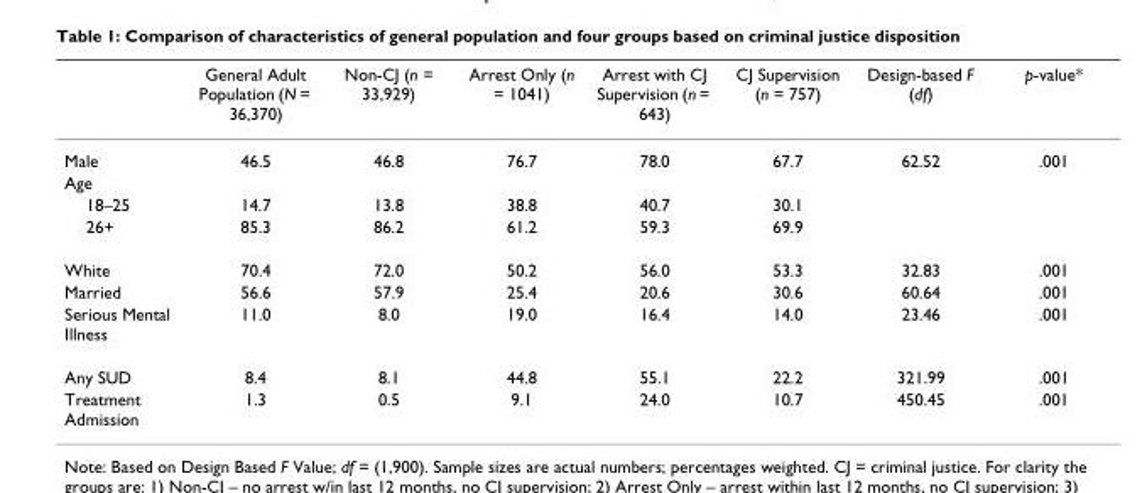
<table><thead><tr><td></td><td>General Adult Population (N = 36,370)</td><td>Non-CJ (n = 33,929)</td><td>Arrest Only (n = 1041)</td><td>Arrest with CJ Supervision (n = 643)</td><td>CJ Supervision (n = 757)</td><td>Design-based F (df)</td><td>p-value*</td></tr></thead><tbody><tr><td>Male</td><td>46.5</td><td>46.8</td><td>76.7</td><td>78.0</td><td>67.7</td><td>62.52</td><td>.001</td></tr><tr><td colspan="8">Age</td></tr><tr><td>18–25</td><td>14.7</td><td>13.8</td><td>38.8</td><td>40.7</td><td>30.1</td><td></td><td></td></tr><tr><td>26+</td><td>85.3</td><td>86.2</td><td>61.2</td><td>59.3</td><td>69.9</td><td></td><td></td></tr><tr><td>White</td><td>70.4</td><td>72.0</td><td>50.2</td><td>56.0</td><td>53.3</td><td>32.83</td><td>.001</td></tr><tr><td>Married</td><td>56.6</td><td>57.9</td><td>25.4</td><td>20.6</td><td>30.6</td><td>60.64</td><td>.001</td></tr><tr><td>Serious Mental Illness</td><td>11.0</td><td>8.0</td><td>19.0</td><td>16.4</td><td>14.0</td><td>23.46</td><td>.001</td></tr><tr><td>Any SUD</td><td>8.4</td><td>8.1</td><td>44.8</td><td>55.1</td><td>22.2</td><td>321.99</td><td>.001</td></tr><tr><td>Treatment Admission</td><td>1.3</td><td>0.5</td><td>9.1</td><td>24.0</td><td>10.7</td><td>450.45</td><td>.001</td></tr></tbody></table>